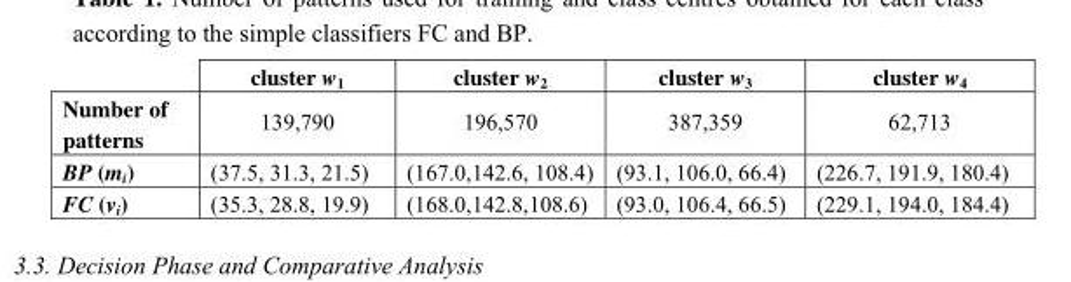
<table><thead><tr><td></td><td>cluster w<sub>1</sub></td><td>cluster w<sub>2</sub></td><td>cluster w<sub>3</sub></td><td>cluster w<sub>4</sub></td></tr></thead><tbody><tr><td>Number of patterns</td><td>139,790</td><td>196,570</td><td>387,359</td><td>62,713</td></tr><tr><td>BP (m<sub>i</sub>)</td><td>(37.5, 31.3, 21.5)</td><td>(167.0,142.6, 108.4)</td><td>(93.1, 106.0, 66.4)</td><td>(226.7, 191.9, 180.4)</td></tr><tr><td>FC (v<sub>i</sub>)</td><td>(35.3, 28.8, 19.9)</td><td>(168.0,142.8,108.6)</td><td>(93.0, 106.4, 66.5)</td><td>(229.1, 194.0, 184.4)</td></tr></tbody></table>